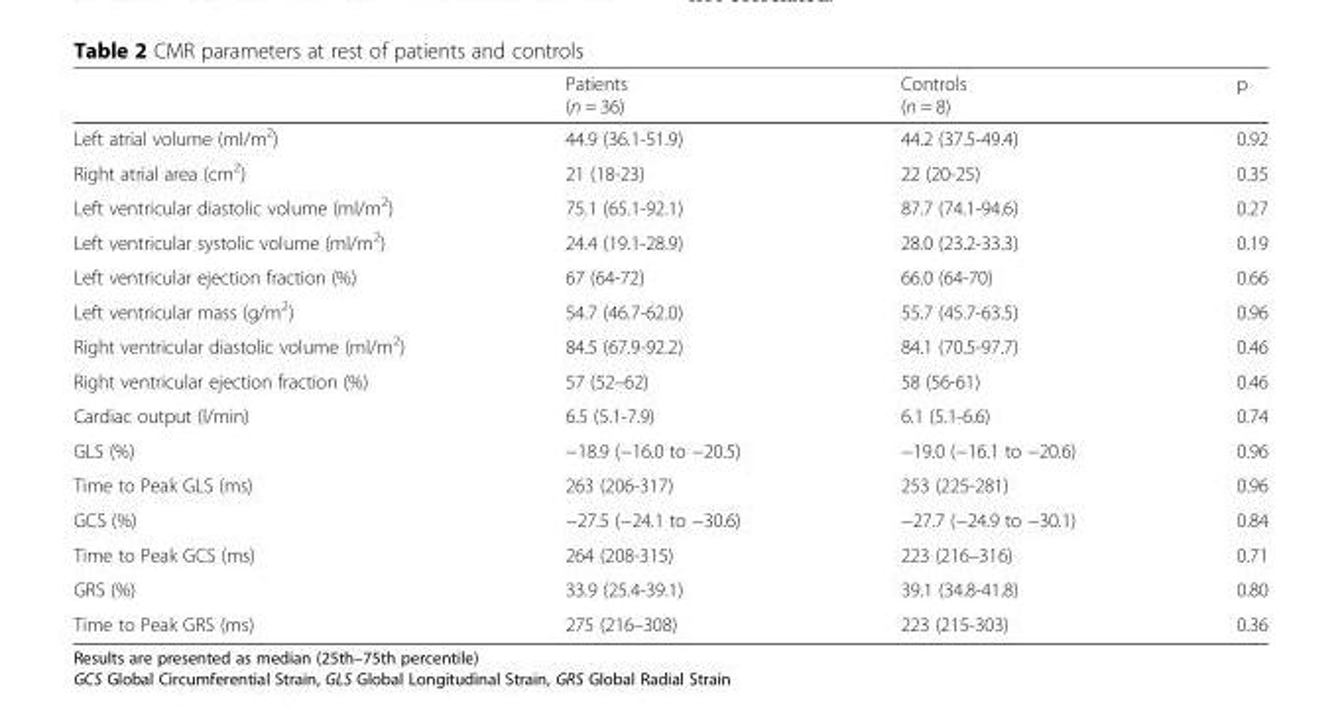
<table><thead><tr><td></td><td>Patients (n = 36)</td><td>Controls (n = 8)</td><td>p</td></tr></thead><tbody><tr><td>Left atrial volume (ml/m<sup>2</sup>)</td><td>44.9 (36.1-51.9)</td><td>44.2 (37.5-49.4)</td><td>0.92</td></tr><tr><td>Right atrial area (cm<sup>2</sup>)</td><td>21 (18-23)</td><td>22 (20-25)</td><td>0.35</td></tr><tr><td>Left ventricular diastolic volume (ml/m<sup>2</sup>)</td><td>75.1 (65.1-92.1)</td><td>87.7 (74.1-94.6)</td><td>0.27</td></tr><tr><td>Left ventricular systolic volume (ml/m<sup>2</sup>)</td><td>24.4 (19.1-28.9)</td><td>28.0 (23.2-33.3)</td><td>0.19</td></tr><tr><td>Left ventricular ejection fraction (%)</td><td>67 (64-72)</td><td>66.0 (64-70)</td><td>0.66</td></tr><tr><td>Left ventricular mass (g/m<sup>2</sup>)</td><td>54.7 (46.7-62.0)</td><td>55.7 (45.7-63.5)</td><td>0.96</td></tr><tr><td>Right ventricular diastolic volume (ml/m<sup>2</sup>)</td><td>84.5 (67.9-92.2)</td><td>84.1 (70.5-97.7)</td><td>0.46</td></tr><tr><td>Right ventricular ejection fraction (%)</td><td>57 (52–62)</td><td>58 (56-61)</td><td>0.46</td></tr><tr><td>Cardiac output (l/min)</td><td>6.5 (5.1-7.9)</td><td>6.1 (5.1-6.6)</td><td>0.74</td></tr><tr><td>GLS (%)</td><td>−18.9 (−16.0 to −20.5)</td><td>−19.0 (−16.1 to −20.6)</td><td>0.96</td></tr><tr><td>Time to Peak GLS (ms)</td><td>263 (206-317)</td><td>253 (225-281)</td><td>0.96</td></tr><tr><td>GCS (%)</td><td>−27.5 (−24.1 to −30.6)</td><td>−27.7 (−24.9 to −30.1)</td><td>0.84</td></tr><tr><td>Time to Peak GCS (ms)</td><td>264 (208-315)</td><td>223 (216–316)</td><td>0.71</td></tr><tr><td>GRS (%)</td><td>33.9 (25.4-39.1)</td><td>39.1 (34.8-41.8)</td><td>0.80</td></tr><tr><td>Time to Peak GRS (ms)</td><td>275 (216–308)</td><td>223 (215-303)</td><td>0.36</td></tr></tbody></table>